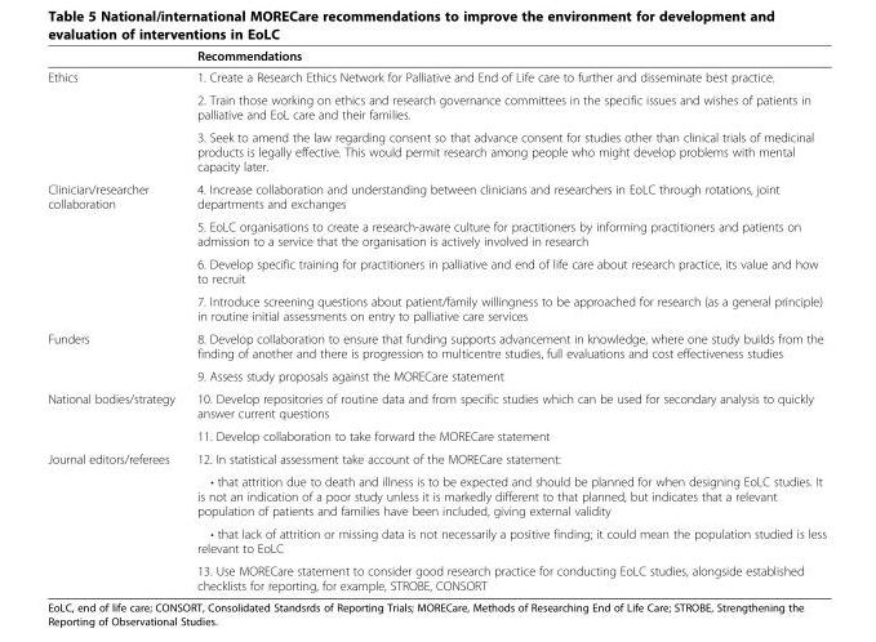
<table><thead><tr><td></td><td>Recommendations</td></tr></thead><tbody><tr><td rowspan="3">Ethics</td><td>1. Create a Research Ethics Network for Palliative and End of Life care to further and disseminate best practice.</td></tr><tr><td>2. Train those working on ethics and research governance committees in the specific issues and wishes of patients in palliative and EoL care and their families.</td></tr><tr><td>3. Seek to amend the law regarding consent so that advance consent for studies other than clinical trials of medicinal products is legally effective. This would permit research among people who might develop problems with mental capacity later.</td></tr><tr><td rowspan="4">Clinician/researcher collaboration</td><td>4. Increase collaboration and understanding between clinicians and researchers in EoLC through rotations, joint departments and exchanges</td></tr><tr><td>5. EoLC organisations to create a research-aware culture for practitioners by informing practitioners and patients on admission to a service that the organisation is actively involved in research</td></tr><tr><td>6. Develop specific training for practitioners in palliative and end of life care about research practice, its value and how to recruit</td></tr><tr><td>7. Introduce screening questions about patient/family willingness to be approached for research (as a general principle) in routine initial assessments on entry to palliative care services</td></tr><tr><td rowspan="2">Funders</td><td>8. Develop collaboration to ensure that funding supports advancement in knowledge, where one study builds from the finding of another and there is progression to multicentre studies, full evaluations and cost effectiveness studies</td></tr><tr><td>9. Assess study proposals against the MORECare statement</td></tr><tr><td rowspan="2">National bodies/strategy</td><td>10. Develop repositories of routine data and from specific studies which can be used for secondary analysis to quickly answer current questions</td></tr><tr><td>11. Develop collaboration to take forward the MORECare statement</td></tr><tr><td rowspan="4">Journal editors/referees</td><td>12. In statistical assessment take account of the MORECare statement:</td></tr><tr><td>• that attrition due to death and illness is to be expected and should be planned for when designing EoLC studies. It is not an indication of a poor study unless it is markedly different to that planned, but indicates that a relevant population of patients and families have been included, giving external validity</td></tr><tr><td>• that lack of attrition or missing data is not necessarily a positive finding; it could mean the population studied is less relevant to EoLC</td></tr><tr><td>13. Use MORECare statement to consider good research practice for conducting EoLC studies, alongside established checklists for reporting, for example, STROBE, CONSORT</td></tr></tbody></table>